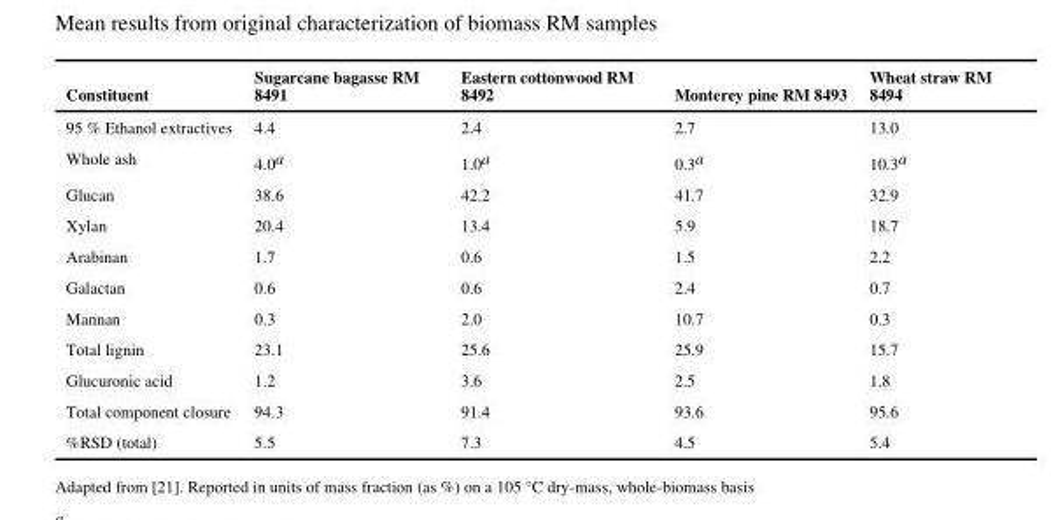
<table><thead><tr><td>Constituent</td><td>Sugarcane bagasse RM 8491</td><td>Eastern cottonwood RM 8492</td><td>Monterey pine RM 8493</td><td>Wheat straw RM 8494</td></tr></thead><tbody><tr><td>95 % Ethanol extractives</td><td>4.4</td><td>2.4</td><td>2.7</td><td>13.0</td></tr><tr><td>Whole ash</td><td>4.0<sup>a</sup></td><td>1.0<sup>a</sup></td><td>0.3<sup>a</sup></td><td>10.3<sup>a</sup></td></tr><tr><td>Glucan</td><td>38.6</td><td>42.2</td><td>41.7</td><td>32.9</td></tr><tr><td>Xylan</td><td>20.4</td><td>13.4</td><td>5.9</td><td>18.7</td></tr><tr><td>Arabinan</td><td>1.7</td><td>0.6</td><td>1.5</td><td>2.2</td></tr><tr><td>Galactan</td><td>0.6</td><td>0.6</td><td>2.4</td><td>0.7</td></tr><tr><td>Mannan</td><td>0.3</td><td>2.0</td><td>10.7</td><td>0.3</td></tr><tr><td>Total lignin</td><td>23.1</td><td>25.6</td><td>25.9</td><td>15.7</td></tr><tr><td>Glucuronic acid</td><td>1.2</td><td>3.6</td><td>2.5</td><td>1.8</td></tr><tr><td>Total component closure</td><td>94.3</td><td>91.4</td><td>93.6</td><td>95.6</td></tr><tr><td>%RSD (total)</td><td>5.5</td><td>7.3</td><td>4.5</td><td>5.4</td></tr></tbody></table>